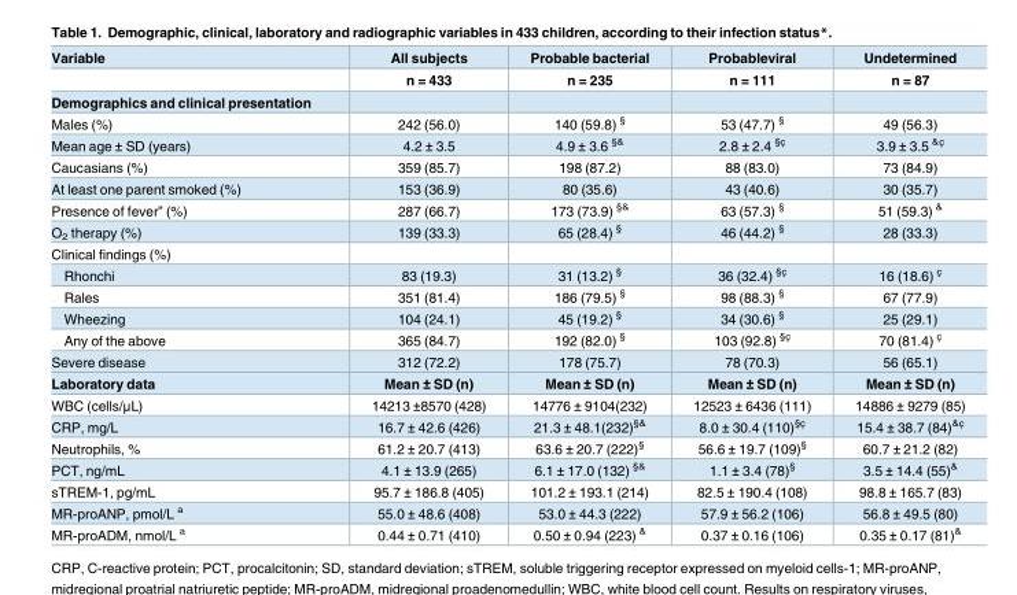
<table><thead><tr><td rowspan="2">Variable</td><td rowspan="2">All subjects n = 433</td><td rowspan="2">Probable bacterial n = 235</td><td rowspan="2">Probableviral n = 111</td><td rowspan="2">Undetermined n = 87</td></tr><tr></tr></thead><tbody><tr><td colspan="5">Demographics and clinical presentation</td></tr><tr><td>Males (%)</td><td>242 (56.0)</td><td>140 (59.8) <sup>§</sup></td><td>53 (47.7) <sup>§</sup></td><td>49 (56.3)</td></tr><tr><td>Mean age ± SD (years)</td><td>4.2 ± 3.5</td><td>4.9 ± 3.6 <sup>§&amp;</sup></td><td>2.8 ± 2.4 §c¸</td><td>3.9 ± 3.5 &amp;c¸</td></tr><tr><td>Caucasians (%)</td><td>359 (85.7)</td><td>198 (87.2)</td><td>88 (83.0)</td><td>73 (84.9)</td></tr><tr><td>At least one parent smoked (%)</td><td>153 (36.9)</td><td>80 (35.6)</td><td>43 (40.6)</td><td>30 (35.7)</td></tr><tr><td>Presence of fever” (%)</td><td>287 (66.7)</td><td>173 (73.9) <sup>§&amp;</sup></td><td>63 (57.3) <sup>§</sup></td><td>51 (59.3) <sup>&amp;</sup></td></tr><tr><td>O<sub>2</sub> therapy (%)</td><td>139 (33.3)</td><td>65 (28.4) <sup>§</sup></td><td>46 (44.2) <sup>§</sup></td><td>28 (33.3)</td></tr><tr><td colspan="5">Clinical findings (%)</td></tr><tr><td>Rhonchi</td><td>83 (19.3)</td><td>31 (13.2) <sup>§</sup></td><td>36 (32.4) §c¸</td><td>16 (18.6) c¸</td></tr><tr><td>Rales</td><td>351 (81.4)</td><td>186 (79.5) <sup>§</sup></td><td>98 (88.3) <sup>§</sup></td><td>67 (77.9)</td></tr><tr><td>Wheezing</td><td>104 (24.1)</td><td>45 (19.2) <sup>§</sup></td><td>34 (30.6) <sup>§</sup></td><td>25 (29.1)</td></tr><tr><td>Any of the above</td><td>365 (84.7)</td><td>192 (82.0) <sup>§</sup></td><td>103 (92.8) §c¸</td><td>70 (81.4) c¸</td></tr><tr><td>Severe disease</td><td>312 (72.2)</td><td>178 (75.7)</td><td>78 (70.3)</td><td>56 (65.1)</td></tr><tr><td>Laboratory data</td><td>Mean ± SD (n)</td><td>Mean ± SD (n)</td><td>Mean ± SD (n)</td><td>Mean ± SD (n)</td></tr><tr><td>WBC (cells/μL)</td><td>14213 ±8570 (428)</td><td>14776 ± 9104(232)</td><td>12523 ± 6436 (111)</td><td>14886 ± 9279 (85)</td></tr><tr><td>CRP, mg/L</td><td>16.7 ± 42.6 (426)</td><td>21.3 ± 48.1(232)<sup>§&amp;</sup></td><td>8.0 ± 30.4 (110)§c¸</td><td>15.4 ± 38.7 (84)&amp;c¸</td></tr><tr><td>Neutrophils, %</td><td>61.2 ± 20.7 (413)</td><td>63.6 ± 20.7 (222)<sup>§</sup></td><td>56.6 ± 19.7 (109)<sup>§</sup></td><td>60.7 ± 21.2 (82)</td></tr><tr><td>PCT, ng/mL</td><td>4.1 ± 13.9 (265)</td><td>6.1 ± 17.0 (132) <sup>§&amp;</sup></td><td>1.1 ± 3.4 (78)<sup>§</sup></td><td>3.5 ± 14.4 (55)<sup>&amp;</sup></td></tr><tr><td>sTREM-1, pg/mL</td><td>95.7 ± 186.8 (405)</td><td>101.2 ± 193.1 (214)</td><td>82.5 ± 190.4 (108)</td><td>98.8 ± 165.7 (83)</td></tr><tr><td>MR-proANP, pmol/L <sup>a</sup></td><td>55.0 ± 48.6 (408)</td><td>53.0 ± 44.3 (222)</td><td>57.9 ± 56.2 (106)</td><td>56.8 ± 49.5 (80)</td></tr><tr><td>MR-proADM, nmol/L <sup>a</sup></td><td>0.44 ± 0.71 (410)</td><td>0.50 ± 0.94 (223) <sup>&amp;</sup></td><td>0.37 ± 0.16 (106)</td><td>0.35 ± 0.17 (81)<sup>&amp;</sup></td></tr></tbody></table>